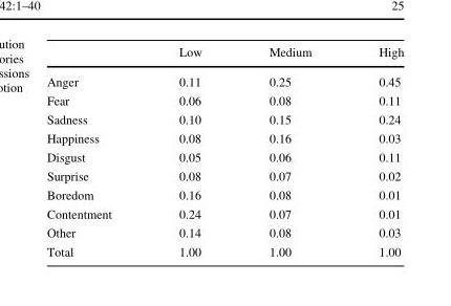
<table><thead><tr><td></td><td>Low</td><td>Medium</td><td>High</td></tr></thead><tbody><tr><td>Anger</td><td>0.11</td><td>0.25</td><td>0.45</td></tr><tr><td>Fear</td><td>0.06</td><td>0.08</td><td>0.11</td></tr><tr><td>Sadness</td><td>0.10</td><td>0.15</td><td>0.24</td></tr><tr><td>Happiness</td><td>0.08</td><td>0.16</td><td>0.03</td></tr><tr><td>Disgust</td><td>0.05</td><td>0.06</td><td>0.11</td></tr><tr><td>Surprise</td><td>0.08</td><td>0.07</td><td>0.02</td></tr><tr><td>Boredom</td><td>0.16</td><td>0.08</td><td>0.01</td></tr><tr><td>Contentment</td><td>0.24</td><td>0.07</td><td>0.01</td></tr><tr><td>Other</td><td>0.14</td><td>0.08</td><td>0.03</td></tr><tr><td>Total</td><td>1.00</td><td>1.00</td><td>1.00</td></tr></tbody></table>